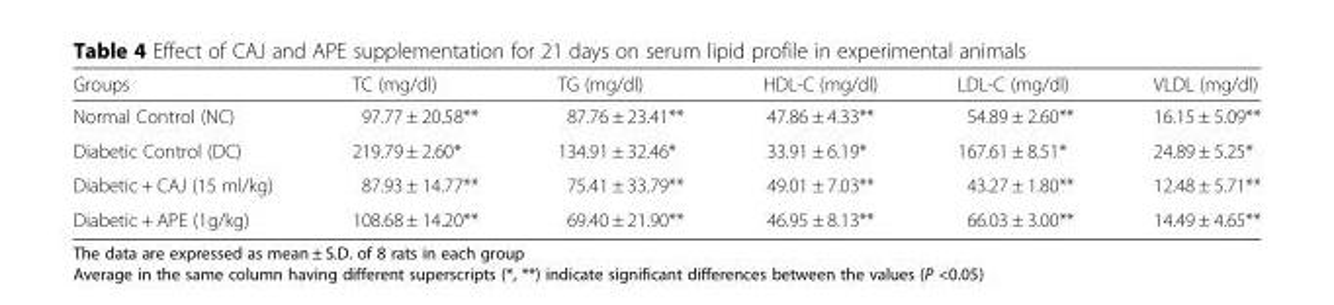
<table><thead><tr><td>Groups</td><td>TC (mg/dl)</td><td>TG (mg/dl)</td><td>HDL-C (mg/dl)</td><td>LDL-C (mg/dl)</td><td>VLDL (mg/dl)</td></tr></thead><tbody><tr><td>Normal Control (NC)</td><td>97.77 ± 20.58**</td><td>87.76 ± 23.41**</td><td>47.86 ± 4.33**</td><td>54.89 ± 2.60**</td><td>16.15 ± 5.09**</td></tr><tr><td>Diabetic Control (DC)</td><td>219.79 ± 2.60*</td><td>134.91 ± 32.46*</td><td>33.91 ± 6.19*</td><td>167.61 ± 8.51*</td><td>24.89 ± 5.25*</td></tr><tr><td>Diabetic + CAJ (15 ml/kg)</td><td>87.93 ± 14.77**</td><td>75.41 ± 33.79**</td><td>49.01 ± 7.03**</td><td>43.27 ± 1.80**</td><td>12.48 ± 5.71**</td></tr><tr><td>Diabetic + APE (1g/kg)</td><td>108.68 ± 14.20**</td><td>69.40 ± 21.90**</td><td>46.95 ± 8.13**</td><td>66.03 ± 3.00**</td><td>14.49 ± 4.65**</td></tr></tbody></table>